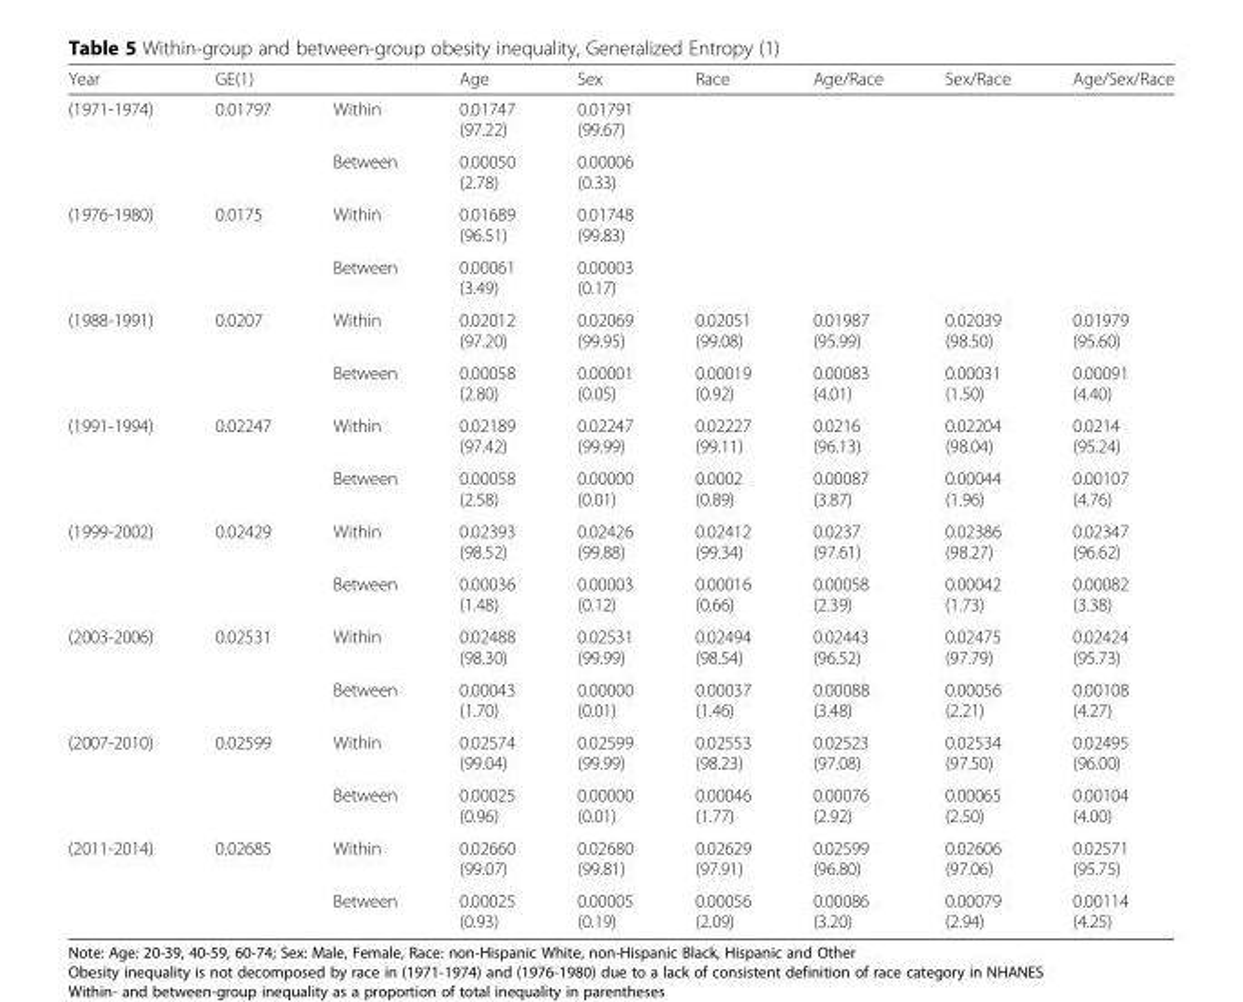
<table><thead><tr><td>Year</td><td>GE(1)</td><td></td><td>Age</td><td>Sex</td><td>Race</td><td>Age/Race</td><td>Sex/Race</td><td>Age/Sex/Race</td></tr></thead><tbody><tr><td rowspan="2">(1971-1974)</td><td rowspan="2">0.01797</td><td>Within</td><td>0.01747 (97.22)</td><td>0.01791 (99.67)</td><td></td><td></td><td></td><td></td></tr><tr><td>Between</td><td>0.00050 (2.78)</td><td>0.00006 (0.33)</td><td></td><td></td><td></td><td></td></tr><tr><td rowspan="2">(1976-1980)</td><td rowspan="2">0.0175</td><td>Within</td><td>0.01689 (96.51)</td><td>0.01748 (99.83)</td><td></td><td></td><td></td><td></td></tr><tr><td>Between</td><td>0.00061 (3.49)</td><td>0.00003 (0.17)</td><td></td><td></td><td></td><td></td></tr><tr><td rowspan="2">(1988-1991)</td><td rowspan="2">0.0207</td><td>Within</td><td>0.02012 (97.20)</td><td>0.02069 (99.95)</td><td>0.02051 (99.08)</td><td>0.01987 (95.99)</td><td>0.02039 (98.50)</td><td>0.01979 (95.60)</td></tr><tr><td>Between</td><td>0.00058 (2.80)</td><td>0.00001 (0.05)</td><td>0.00019 (0.92)</td><td>0.00083 (4.01)</td><td>0.00031 (1.50)</td><td>0.00091 (4.40)</td></tr><tr><td rowspan="2">(1991-1994)</td><td rowspan="2">0.02247</td><td>Within</td><td>0.02189 (97.42)</td><td>0.02247 (99.99)</td><td>0.02227 (99.11)</td><td>0.0216 (96.13)</td><td>0.02204 (98.04)</td><td>0.0214 (95.24)</td></tr><tr><td>Between</td><td>0.00058 (2.58)</td><td>0.00000 (0.01)</td><td>0.0002 (0.89)</td><td>0.00087 (3.87)</td><td>0.00044 (1.96)</td><td>0.00107 (4.76)</td></tr><tr><td rowspan="2">(1999-2002)</td><td rowspan="2">0.02429</td><td>Within</td><td>0.02393 (98.52)</td><td>0.02426 (99.88)</td><td>0.02412 (99.34)</td><td>0.0237 (97.61)</td><td>0.02386 (98.27)</td><td>0.02347 (96.62)</td></tr><tr><td>Between</td><td>0.00036 (1.48)</td><td>0.00003 (0.12)</td><td>0.00016 (0.66)</td><td>0.00058 (2.39)</td><td>0.00042 (1.73)</td><td>0.00082 (3.38)</td></tr><tr><td rowspan="2">(2003-2006)</td><td rowspan="2">0.02531</td><td>Within</td><td>0.02488 (98.30)</td><td>0.02531 (99.99)</td><td>0.02494 (98.54)</td><td>0.02443 (96.52)</td><td>0.02475 (97.79)</td><td>0.02424 (95.73)</td></tr><tr><td>Between</td><td>0.00043 (1.70)</td><td>0.00000 (0.01)</td><td>0.00037 (1.46)</td><td>0.00088 (3.48)</td><td>0.00056 (2.21)</td><td>0.00108 (4.27)</td></tr><tr><td rowspan="2">(2007-2010)</td><td rowspan="2">0.02599</td><td>Within</td><td>0.02574 (99.04)</td><td>0.02599 (99.99)</td><td>0.02553 (98.23)</td><td>0.02523 (97.08)</td><td>0.02534 (97.50)</td><td>0.02495 (96.00)</td></tr><tr><td>Between</td><td>0.00025 (0.96)</td><td>0.00000 (0.01)</td><td>0.00046 (1.77)</td><td>0.00076 (2.92)</td><td>0.00065 (2.50)</td><td>0.00104 (4.00)</td></tr><tr><td rowspan="2">(2011-2014)</td><td rowspan="2">0.02685</td><td>Within</td><td>0.02660 (99.07)</td><td>0.02680 (99.81)</td><td>0.02629 (97.91)</td><td>0.02599 (96.80)</td><td>0.02606 (97.06)</td><td>0.02571 (95.75)</td></tr><tr><td>Between</td><td>0.00025 (0.93)</td><td>0.00005 (0.19)</td><td>0.00056 (2.09)</td><td>0.00086 (3.20)</td><td>0.00079 (2.94)</td><td>0.00114 (4.25)</td></tr></tbody></table>